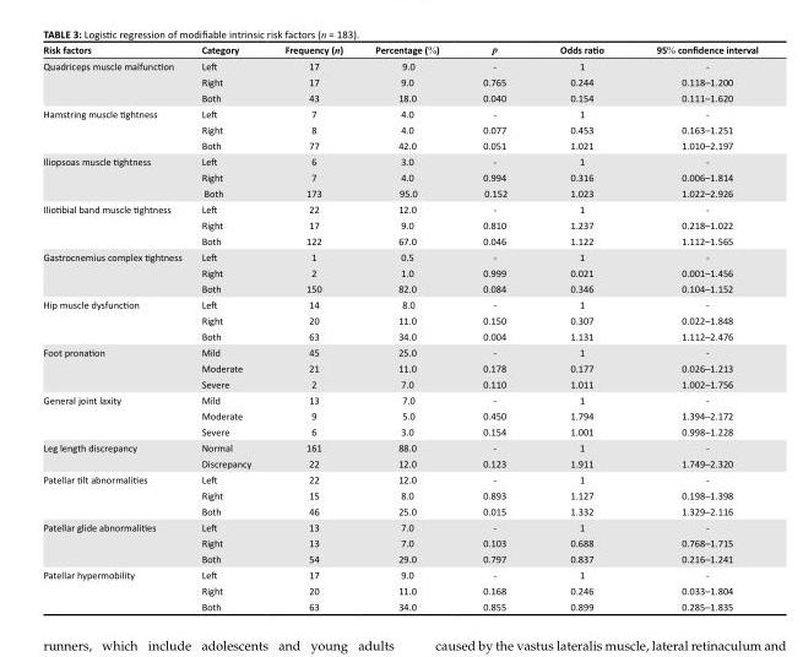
<table><thead><tr><td>Risk factors</td><td>Category</td><td>Frequency (n)</td><td>Percentage (%)</td><td>p</td><td>Odds ratio</td><td>95% confidence interval</td></tr></thead><tbody><tr><td rowspan="3">Quadriceps muscle malfunction</td><td>Left</td><td>17</td><td>9.0</td><td>-</td><td>1</td><td>-</td></tr><tr><td>Right</td><td>17</td><td>9.0</td><td>0.765</td><td>0.244</td><td>0.118–1.200</td></tr><tr><td>Both</td><td>43</td><td>18.0</td><td>0.040</td><td>0.154</td><td>0.111–1.620</td></tr><tr><td rowspan="3">Hamstring muscle tightness</td><td>Left</td><td>7</td><td>4.0</td><td>-</td><td>1</td><td>-</td></tr><tr><td>Right</td><td>8</td><td>4.0</td><td>0.077</td><td>0.453</td><td>0.163–1.251</td></tr><tr><td>Both</td><td>77</td><td>42.0</td><td>0.051</td><td>1.021</td><td>1.010–2.197</td></tr><tr><td rowspan="3">Iliopsoas muscle tightness</td><td>Left</td><td>6</td><td>3.0</td><td>-</td><td>1</td><td>-</td></tr><tr><td>Right</td><td>7</td><td>4.0</td><td>0.994</td><td>0.316</td><td>0.006–1.814</td></tr><tr><td>Both</td><td>173</td><td>95.0</td><td>0.152</td><td>1.023</td><td>1.022–2.926</td></tr><tr><td rowspan="3">Iliotibial band muscle tightness</td><td>Left</td><td>22</td><td>12.0</td><td>-</td><td>1</td><td>-</td></tr><tr><td>Right</td><td>17</td><td>9.0</td><td>0.810</td><td>1.237</td><td>0.218–1.022</td></tr><tr><td>Both</td><td>122</td><td>67.0</td><td>0.046</td><td>1.122</td><td>1.112–1.565</td></tr><tr><td rowspan="3">Gastrocnemius complex tightness</td><td>Left</td><td>1</td><td>0.5</td><td>-</td><td>1</td><td>-</td></tr><tr><td>Right</td><td>2</td><td>1.0</td><td>0.999</td><td>0.021</td><td>0.001–1.456</td></tr><tr><td>Both</td><td>150</td><td>82.0</td><td>0.084</td><td>0.346</td><td>0.104–1.152</td></tr><tr><td rowspan="3">Hip muscle dysfunction</td><td>Left</td><td>14</td><td>8.0</td><td>-</td><td>1</td><td>-</td></tr><tr><td>Right</td><td>20</td><td>11.0</td><td>0.150</td><td>0.307</td><td>0.022–1.848</td></tr><tr><td>Both</td><td>63</td><td>34.0</td><td>0.004</td><td>1.131</td><td>1.112–2.476</td></tr><tr><td rowspan="3">Foot pronation</td><td>Mild</td><td>45</td><td>25.0</td><td>-</td><td>1</td><td>-</td></tr><tr><td>Moderate</td><td>21</td><td>11.0</td><td>0.178</td><td>0.177</td><td>0.026–1.213</td></tr><tr><td>Severe</td><td>2</td><td>7.0</td><td>0.110</td><td>1.011</td><td>1.002–1.756</td></tr><tr><td rowspan="3">General joint laxity</td><td>Mild</td><td>13</td><td>7.0</td><td>-</td><td>1</td><td>-</td></tr><tr><td>Moderate</td><td>9</td><td>5.0</td><td>0.450</td><td>1.794</td><td>1.394–2.172</td></tr><tr><td>Severe</td><td>6</td><td>3.0</td><td>0.154</td><td>1.001</td><td>0.998–1.228</td></tr><tr><td rowspan="2">Leg length discrepancy</td><td>Normal</td><td>161</td><td>88.0</td><td>-</td><td>1</td><td>-</td></tr><tr><td>Discrepancy</td><td>22</td><td>12.0</td><td>0.123</td><td>1.911</td><td>1.749–2.320</td></tr><tr><td rowspan="3">Patellar tilt abnormalities</td><td>Left</td><td>22</td><td>12.0</td><td>-</td><td>1</td><td>-</td></tr><tr><td>Right</td><td>15</td><td>8.0</td><td>0.893</td><td>1.127</td><td>0.198–1.398</td></tr><tr><td>Both</td><td>46</td><td>25.0</td><td>0.015</td><td>1.332</td><td>1.329–2.116</td></tr><tr><td rowspan="3">Patellar glide abnormalities</td><td>Left</td><td>13</td><td>7.0</td><td>-</td><td>1</td><td>-</td></tr><tr><td>Right</td><td>13</td><td>7.0</td><td>0.103</td><td>0.688</td><td>0.768–1.715</td></tr><tr><td>Both</td><td>54</td><td>29.0</td><td>0.797</td><td>0.837</td><td>0.216–1.241</td></tr><tr><td rowspan="3">Patellar hypermobility</td><td>Left</td><td>17</td><td>9.0</td><td>-</td><td>1</td><td>-</td></tr><tr><td>Right</td><td>20</td><td>11.0</td><td>0.168</td><td>0.246</td><td>0.033–1.804</td></tr><tr><td>Both</td><td>63</td><td>34.0</td><td>0.855</td><td>0.899</td><td>0.285–1.835</td></tr></tbody></table>